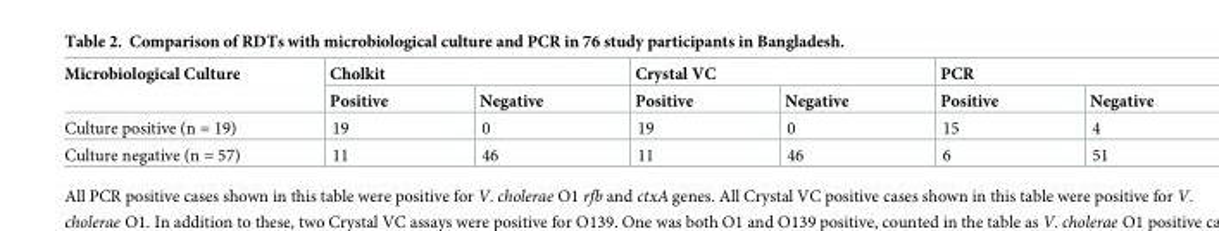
<table><thead><tr><td rowspan="2">Microbiological Culture</td><td colspan="2">Cholkit</td><td colspan="2">Crystal VC</td><td colspan="2">PCR</td></tr><tr><td>Positive</td><td>Negative</td><td>Positive</td><td>Negative</td><td>Positive</td><td>Negative</td></tr></thead><tbody><tr><td>Culture positive (n = 19)</td><td>19</td><td>0</td><td>19</td><td>0</td><td>15</td><td>4</td></tr><tr><td>Culture negative (n = 57)</td><td>11</td><td>46</td><td>11</td><td>46</td><td>6</td><td>51</td></tr></tbody></table>